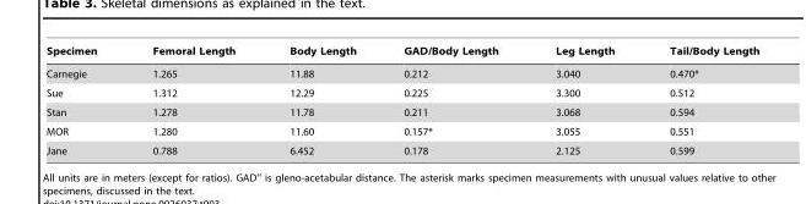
<table><thead><tr><td>Specimen</td><td>Femoral Length</td><td>Body Length</td><td>GAD/Body Length</td><td>Leg Length</td><td>Tail/Body Length</td></tr></thead><tbody><tr><td>Carnegie</td><td>1.265</td><td>11.88</td><td>0.212</td><td>3.040</td><td>0.470*</td></tr><tr><td>Sue</td><td>1.312</td><td>12.29</td><td>0.225</td><td>3.300</td><td>0.512</td></tr><tr><td>Stan</td><td>1.278</td><td>11.78</td><td>0.211</td><td>3.068</td><td>0.594</td></tr><tr><td>MOR</td><td>1.280</td><td>11.60</td><td>0.157*</td><td>3.055</td><td>0.551</td></tr><tr><td>Jane</td><td>0.788</td><td>6.452</td><td>0.178</td><td>2.125</td><td>0.599</td></tr></tbody></table>